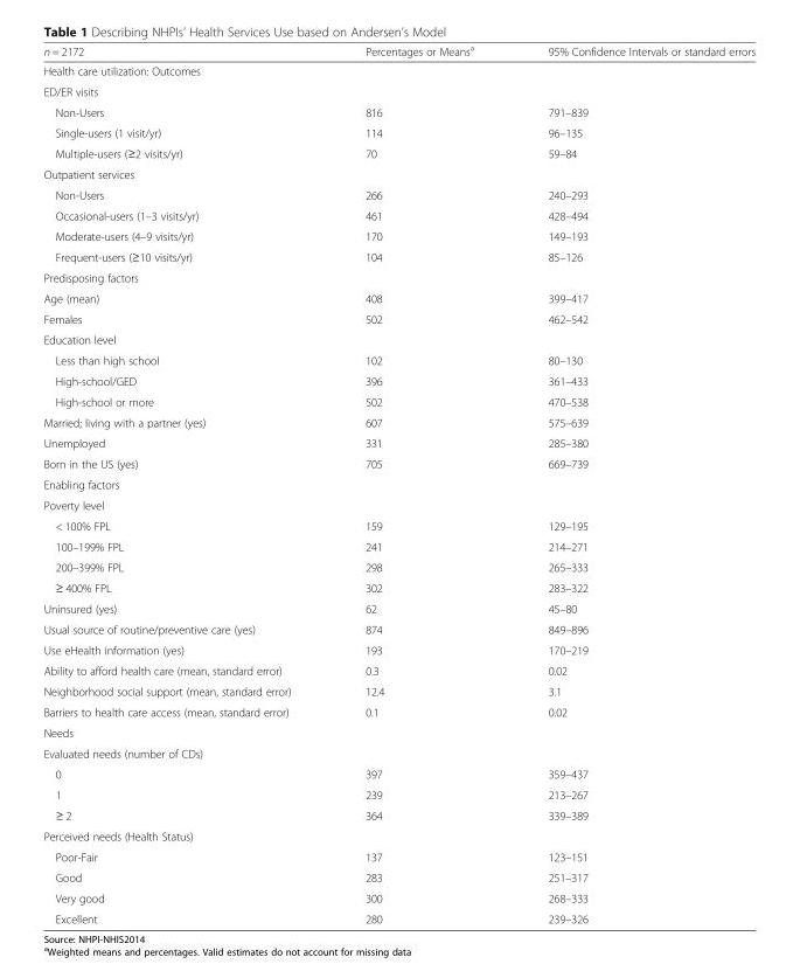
<table><thead><tr><td>n = 2172</td><td>Percentages or Means<sup>a</sup></td><td>95% Confidence Intervals or standard errors</td></tr></thead><tbody><tr><td colspan="3">Health care utilization: Outcomes</td></tr><tr><td colspan="3">ED/ER visits</td></tr><tr><td>Non-Users</td><td>816</td><td>791–839</td></tr><tr><td>Single-users (1 visit/yr)</td><td>114</td><td>96–135</td></tr><tr><td>Multiple-users (≥2 visits/yr)</td><td>70</td><td>59–84</td></tr><tr><td colspan="3">Outpatient services</td></tr><tr><td>Non-Users</td><td>266</td><td>240–293</td></tr><tr><td>Occasional-users (1–3 visits/yr)</td><td>461</td><td>428–494</td></tr><tr><td>Moderate-users (4–9 visits/yr)</td><td>170</td><td>149–193</td></tr><tr><td>Frequent-users (≥10 visits/yr)</td><td>104</td><td>85–126</td></tr><tr><td colspan="3">Predisposing factors</td></tr><tr><td>Age (mean)</td><td>408</td><td>399–417</td></tr><tr><td>Females</td><td>502</td><td>462–542</td></tr><tr><td colspan="3">Education level</td></tr><tr><td>Less than high school</td><td>102</td><td>80–130</td></tr><tr><td>High-school/GED</td><td>396</td><td>361–433</td></tr><tr><td>High-school or more</td><td>502</td><td>470–538</td></tr><tr><td>Married; living with a partner (yes)</td><td>607</td><td>575–639</td></tr><tr><td>Unemployed</td><td>331</td><td>285–380</td></tr><tr><td>Born in the US (yes)</td><td>705</td><td>669–739</td></tr><tr><td colspan="3">Enabling factors</td></tr><tr><td colspan="3">Poverty level</td></tr><tr><td>&lt; 100% FPL</td><td>159</td><td>129–195</td></tr><tr><td>100–199% FPL</td><td>241</td><td>214–271</td></tr><tr><td>200–399% FPL</td><td>298</td><td>265–333</td></tr><tr><td>≥ 400% FPL</td><td>302</td><td>283–322</td></tr><tr><td>Uninsured (yes)</td><td>62</td><td>45–80</td></tr><tr><td>Usual source of routine/preventive care (yes)</td><td>874</td><td>849–896</td></tr><tr><td>Use eHealth information (yes)</td><td>193</td><td>170–219</td></tr><tr><td>Ability to afford health care (mean, standard error)</td><td>0.3</td><td>0.02</td></tr><tr><td>Neighborhood social support (mean, standard error)</td><td>12.4</td><td>3.1</td></tr><tr><td>Barriers to health care access (mean, standard error)</td><td>0.1</td><td>0.02</td></tr><tr><td colspan="3">Needs</td></tr><tr><td colspan="3">Evaluated needs (number of CDs)</td></tr><tr><td>0</td><td>397</td><td>359–437</td></tr><tr><td>1</td><td>239</td><td>213–267</td></tr><tr><td>≥ 2</td><td>364</td><td>339–389</td></tr><tr><td colspan="3">Perceived needs (Health Status)</td></tr><tr><td>Poor-Fair</td><td>137</td><td>123–151</td></tr><tr><td>Good</td><td>283</td><td>251–317</td></tr><tr><td>Very good</td><td>300</td><td>268–333</td></tr><tr><td>Excellent</td><td>280</td><td>239–326</td></tr></tbody></table>